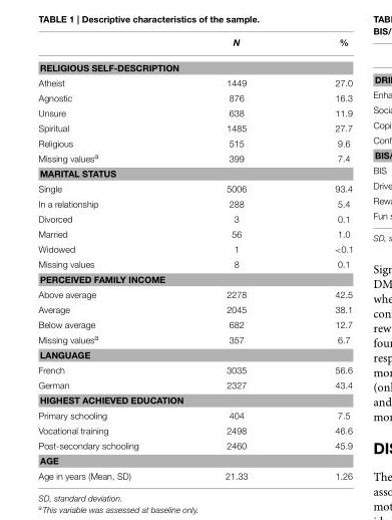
<table><thead><tr><td></td><td>N</td><td>%</td></tr></thead><tbody><tr><td colspan="3">RELIGIOUS SELF-DESCRIPTION</td></tr><tr><td>Atheist</td><td>1449</td><td>27.0</td></tr><tr><td>Agnostic</td><td>876</td><td>16.3</td></tr><tr><td>Unsure</td><td>638</td><td>11.9</td></tr><tr><td>Spiritual</td><td>1485</td><td>27.7</td></tr><tr><td>Religious</td><td>515</td><td>9.6</td></tr><tr><td>Missing values<sup>a</sup></td><td>399</td><td>7.4</td></tr><tr><td colspan="3">MARITAL STATUS</td></tr><tr><td>Single</td><td>5006</td><td>93.4</td></tr><tr><td>In a relationship</td><td>288</td><td>5.4</td></tr><tr><td>Divorced</td><td>3</td><td>0.1</td></tr><tr><td>Married</td><td>56</td><td>1.0</td></tr><tr><td>Widowed</td><td>1</td><td>&lt;0.1</td></tr><tr><td>Missing values</td><td>8</td><td>0.1</td></tr><tr><td colspan="3">PERCEIVED FAMILY INCOME</td></tr><tr><td>Above average</td><td>2278</td><td>42.5</td></tr><tr><td>Average</td><td>2045</td><td>38.1</td></tr><tr><td>Below average</td><td>682</td><td>12.7</td></tr><tr><td>Missing values<sup>a</sup></td><td>357</td><td>6.7</td></tr><tr><td colspan="3">LANGUAGE</td></tr><tr><td>French</td><td>3035</td><td>56.6</td></tr><tr><td>German</td><td>2327</td><td>43.4</td></tr><tr><td colspan="3">HIGHEST ACHIEVED EDUCATION</td></tr><tr><td>Primary schooling</td><td>404</td><td>7.5</td></tr><tr><td>Vocational training</td><td>2498</td><td>46.6</td></tr><tr><td>Post-secondary schooling</td><td>2460</td><td>45.9</td></tr><tr><td colspan="3">AGE</td></tr><tr><td>Age in years (Mean, SD)</td><td>21.33</td><td>1.26</td></tr></tbody></table>